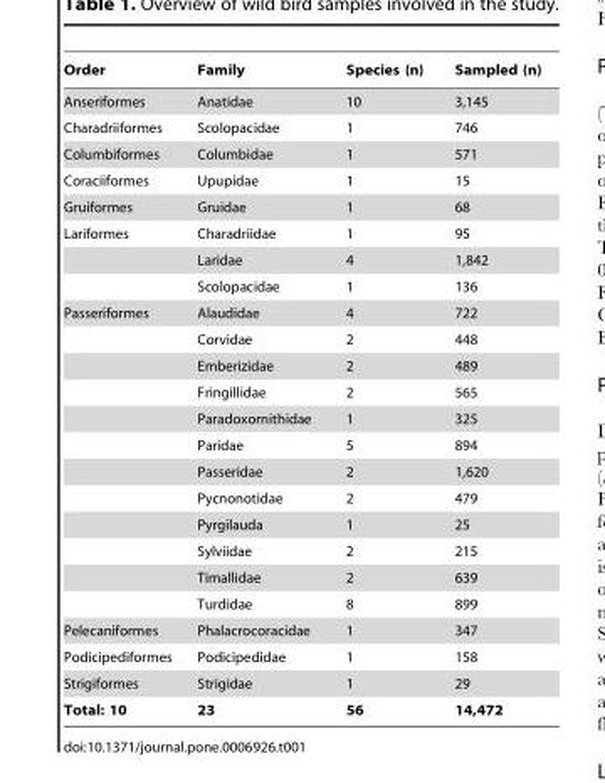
<table><thead><tr><td>Order</td><td>Family</td><td>Species (n)</td><td>Sampled (n)</td></tr></thead><tbody><tr><td>Anseriformes</td><td>Anatidae</td><td>10</td><td>3,145</td></tr><tr><td>Charadriiformes</td><td>Scolopacidae</td><td>1</td><td>746</td></tr><tr><td>Columbiformes</td><td>Columbidae</td><td>1</td><td>571</td></tr><tr><td>Coraciiformes</td><td>Upupidae</td><td>1</td><td>15</td></tr><tr><td>Gruiformes</td><td>Gruidae</td><td>1</td><td>68</td></tr><tr><td rowspan="3">Lariformes</td><td>Charadriidae</td><td>1</td><td>95</td></tr><tr><td>Laridae</td><td>4</td><td>1,842</td></tr><tr><td>Scolopacidae</td><td>1</td><td>136</td></tr><tr><td rowspan="12">Passeriformes</td><td>Alaudidae</td><td>4</td><td>722</td></tr><tr><td>Corvidae</td><td>2</td><td>448</td></tr><tr><td>Emberizidae</td><td>2</td><td>489</td></tr><tr><td>Fringillidae</td><td>2</td><td>565</td></tr><tr><td>Paradoxornithidae</td><td>1</td><td>325</td></tr><tr><td>Paridae</td><td>5</td><td>894</td></tr><tr><td>Passeridae</td><td>2</td><td>1,620</td></tr><tr><td>Pycnonotidae</td><td>2</td><td>479</td></tr><tr><td>Pyrgilauda</td><td>1</td><td>25</td></tr><tr><td>Sylviidae</td><td>2</td><td>215</td></tr><tr><td>Timallidae</td><td>2</td><td>639</td></tr><tr><td>Turdidae</td><td>8</td><td>899</td></tr><tr><td>Pelecaniformes</td><td>Phalacrocoracidae</td><td>1</td><td>347</td></tr><tr><td>Podicipediformes</td><td>Podicipedidae</td><td>1</td><td>158</td></tr><tr><td>Strigiformes</td><td>Strigidae</td><td>1</td><td>29</td></tr><tr><td>Total: 10</td><td>23</td><td>56</td><td>14,472</td></tr></tbody></table>